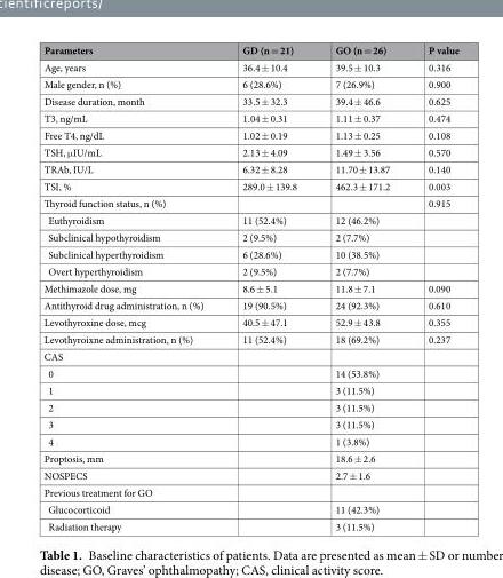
<table><thead><tr><td>Parameters</td><td>GD (n = 21)</td><td>GO (n = 26)</td><td>P value</td></tr></thead><tbody><tr><td>Age, years</td><td>36.4 ± 10.4</td><td>39.5 ± 10.3</td><td>0.316</td></tr><tr><td>Male gender, n (%)</td><td>6 (28.6%)</td><td>7 (26.9%)</td><td>0.900</td></tr><tr><td>Disease duration, month</td><td>33.5 ± 32.3</td><td>39.4 ± 46.6</td><td>0.625</td></tr><tr><td>T3, ng/mL</td><td>1.04 ± 0.31</td><td>1.11 ± 0.37</td><td>0.474</td></tr><tr><td>Free T4, ng/dL</td><td>1.02 ± 0.19</td><td>1.13 ± 0.25</td><td>0.108</td></tr><tr><td>TSH, μIU/mL</td><td>2.13 ± 4.09</td><td>1.49 ± 3.56</td><td>0.570</td></tr><tr><td>TRAb, IU/L</td><td>6.32 ± 8.28</td><td>11.70 ± 13.87</td><td>0.140</td></tr><tr><td>TSI, %</td><td>289.0 ± 139.8</td><td>462.3 ± 171.2</td><td>0.003</td></tr><tr><td>Thyroid function status, n (%)</td><td></td><td></td><td>0.915</td></tr><tr><td>Euthyroidism</td><td>11 (52.4%)</td><td>12 (46.2%)</td><td></td></tr><tr><td>Subclinical hypothyroidism</td><td>2 (9.5%)</td><td>2 (7.7%)</td><td></td></tr><tr><td>Subclinical hyperthyroidism</td><td>6 (28.6%)</td><td>10 (38.5%)</td><td></td></tr><tr><td>Overt hyperthyroidism</td><td>2 (9.5%)</td><td>2 (7.7%)</td><td></td></tr><tr><td>Methimazole dose, mg</td><td>8.6 ± 5.1</td><td>11.8 ± 7.1</td><td>0.090</td></tr><tr><td>Antithyroid drug administration, n (%)</td><td>19 (90.5%)</td><td>24 (92.3%)</td><td>0.610</td></tr><tr><td>Levothyroxine dose, mcg</td><td>40.5 ± 47.1</td><td>52.9 ± 43.8</td><td>0.355</td></tr><tr><td>Levothyroixne administration, n (%)</td><td>11 (52.4%)</td><td>18 (69.2%)</td><td>0.237</td></tr><tr><td colspan="4">CAS</td></tr><tr><td>0</td><td></td><td>14 (53.8%)</td><td></td></tr><tr><td>1</td><td></td><td>3 (11.5%)</td><td></td></tr><tr><td>2</td><td></td><td>3 (11.5%)</td><td></td></tr><tr><td>3</td><td></td><td>3 (11.5%)</td><td></td></tr><tr><td>4</td><td></td><td>1 (3.8%)</td><td></td></tr><tr><td>Proptosis, mm</td><td></td><td>18.6 ± 2.6</td><td></td></tr><tr><td>NOSPECS</td><td></td><td>2.7 ± 1.6</td><td></td></tr><tr><td colspan="4">Previous treatment for GO</td></tr><tr><td>Glucocorticoid</td><td></td><td>11 (42.3%)</td><td></td></tr><tr><td>Radiation therapy</td><td></td><td>3 (11.5%)</td><td></td></tr></tbody></table>